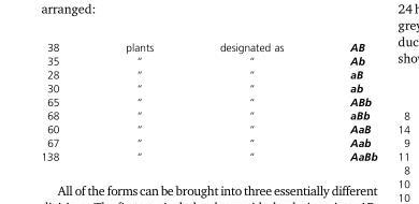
<table><tbody><tr><td>38</td><td>plants</td><td>designated as</td><td>AB</td></tr><tr><td>35</td><td>“</td><td>“</td><td>Ab</td></tr><tr><td>28</td><td>“</td><td>“</td><td>aB</td></tr><tr><td>30</td><td>“</td><td>“</td><td>ab</td></tr><tr><td>65</td><td>“</td><td>“</td><td>ABb</td></tr><tr><td>68</td><td>“</td><td>“</td><td>aBb</td></tr><tr><td>60</td><td>“</td><td>“</td><td>AaB</td></tr><tr><td>67</td><td>“</td><td>“</td><td>Aab</td></tr><tr><td>138</td><td>“</td><td>“</td><td>AaBb</td></tr></tbody></table>